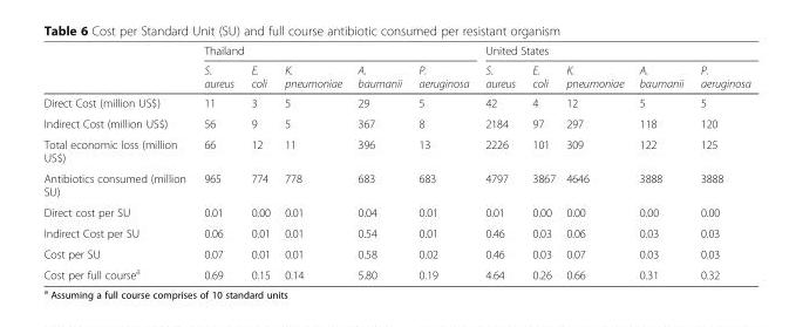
<table><thead><tr><td rowspan="2"></td><td colspan="5">Thailand</td><td colspan="5">United States</td></tr><tr><td>S. aureus</td><td>E. coli</td><td>K. pneumoniae</td><td>A. baumanii</td><td>P. aeruginosa</td><td>S. aureus</td><td>E. coli</td><td>K. pneumoniae</td><td>A. baumanii</td><td>P. aeruginosa</td></tr></thead><tbody><tr><td>Direct Cost (million US$)</td><td>11</td><td>3</td><td>5</td><td>29</td><td>5</td><td>42</td><td>4</td><td>12</td><td>5</td><td>5</td></tr><tr><td>Indirect Cost (million US$)</td><td>56</td><td>9</td><td>5</td><td>367</td><td>8</td><td>2184</td><td>97</td><td>297</td><td>118</td><td>120</td></tr><tr><td>Total economic loss (million US$)</td><td>66</td><td>12</td><td>11</td><td>396</td><td>13</td><td>2226</td><td>101</td><td>309</td><td>122</td><td>125</td></tr><tr><td>Antibiotics consumed (million SU)</td><td>965</td><td>774</td><td>778</td><td>683</td><td>683</td><td>4797</td><td>3867</td><td>4646</td><td>3888</td><td>3888</td></tr><tr><td>Direct cost per SU</td><td>0.01</td><td>0.00</td><td>0.01</td><td>0.04</td><td>0.01</td><td>0.01</td><td>0.00</td><td>0.00</td><td>0.00</td><td>0.00</td></tr><tr><td>Indirect Cost per SU</td><td>0.06</td><td>0.01</td><td>0.01</td><td>0.54</td><td>0.01</td><td>0.46</td><td>0.03</td><td>0.06</td><td>0.03</td><td>0.03</td></tr><tr><td>Cost per SU</td><td>0.07</td><td>0.01</td><td>0.01</td><td>0.58</td><td>0.02</td><td>0.46</td><td>0.03</td><td>0.07</td><td>0.03</td><td>0.03</td></tr><tr><td>Cost per full course<sup>a</sup></td><td>0.69</td><td>0.15</td><td>0.14</td><td>5.80</td><td>0.19</td><td>4.64</td><td>0.26</td><td>0.66</td><td>0.31</td><td>0.32</td></tr></tbody></table>